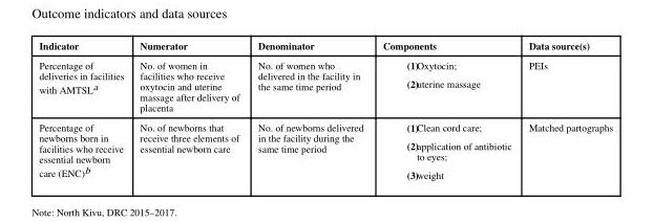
<table><thead><tr><td>Indicator</td><td>Numerator</td><td>Denominator</td><td>Components</td><td>Data source(s)</td></tr></thead><tbody><tr><td>Percentage of deliveries in facilities with AMTSL<sup>a</sup></td><td>No. of women in facilities who receive oxytocin and uterine massage after delivery of placenta</td><td>No. of women who delivered in the facility in the same time period</td><td>(1)Oxytocin; (2)uterine massage</td><td>PEIs</td></tr><tr><td>Percentage of newborns born in facilities who receive essential newborn care (ENC)<sup>b</sup></td><td>No. of newborns that receive three elements of essential newborn care</td><td>No. of newborns delivered in the facility during the same time period</td><td>(1)Clean cord care; (2)application of antibiotic to eyes; (3)weight</td><td>Matched partographs</td></tr></tbody></table>